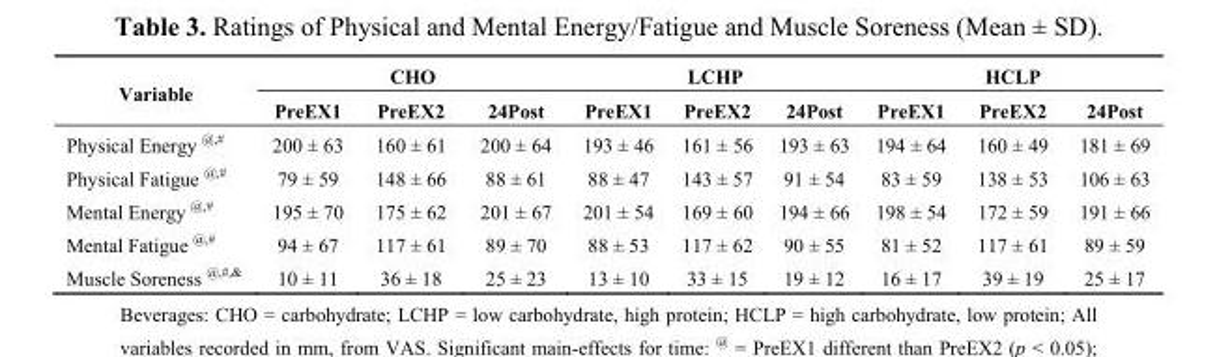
<table><thead><tr><td rowspan="2">Variable</td><td colspan="3">CHO</td><td colspan="3">LCHP</td><td colspan="3">HCLP</td></tr><tr><td>PreEX1</td><td>PreEX2</td><td>24Post</td><td>PreEX1</td><td>PreEX2</td><td>24Post</td><td>PreEX1</td><td>PreEX2</td><td>24Post</td></tr></thead><tbody><tr><td>Physical Energy <sup>@,#</sup></td><td>200 ± 63</td><td>160 ± 61</td><td>200 ± 64</td><td>193 ± 46</td><td>161 ± 56</td><td>193 ± 63</td><td>194 ± 64</td><td>160 ± 49</td><td>181 ± 69</td></tr><tr><td>Physical Fatigue <sup>@,#</sup></td><td>79 ± 59</td><td>148 ± 66</td><td>88 ± 61</td><td>88 ± 47</td><td>143 ± 57</td><td>91 ± 54</td><td>83 ± 59</td><td>138 ± 53</td><td>106 ± 63</td></tr><tr><td>Mental Energy <sup>@,#</sup></td><td>195 ± 70</td><td>175 ± 62</td><td>201 ± 67</td><td>201 ± 54</td><td>169 ± 60</td><td>194 ± 66</td><td>198 ± 54</td><td>172 ± 59</td><td>191 ± 66</td></tr><tr><td>Mental Fatigue <sup>@,#</sup></td><td>94 ± 67</td><td>117 ± 61</td><td>89 ± 70</td><td>88 ± 53</td><td>117 ± 62</td><td>90 ± 55</td><td>81 ± 52</td><td>117 ± 61</td><td>89 ± 59</td></tr><tr><td>Muscle Soreness <sup>@,#,&amp;</sup></td><td>10 ± 11</td><td>36 ± 18</td><td>25 ± 23</td><td>13 ± 10</td><td>33 ± 15</td><td>19 ± 12</td><td>16 ± 17</td><td>39 ± 19</td><td>25 ± 17</td></tr></tbody></table>